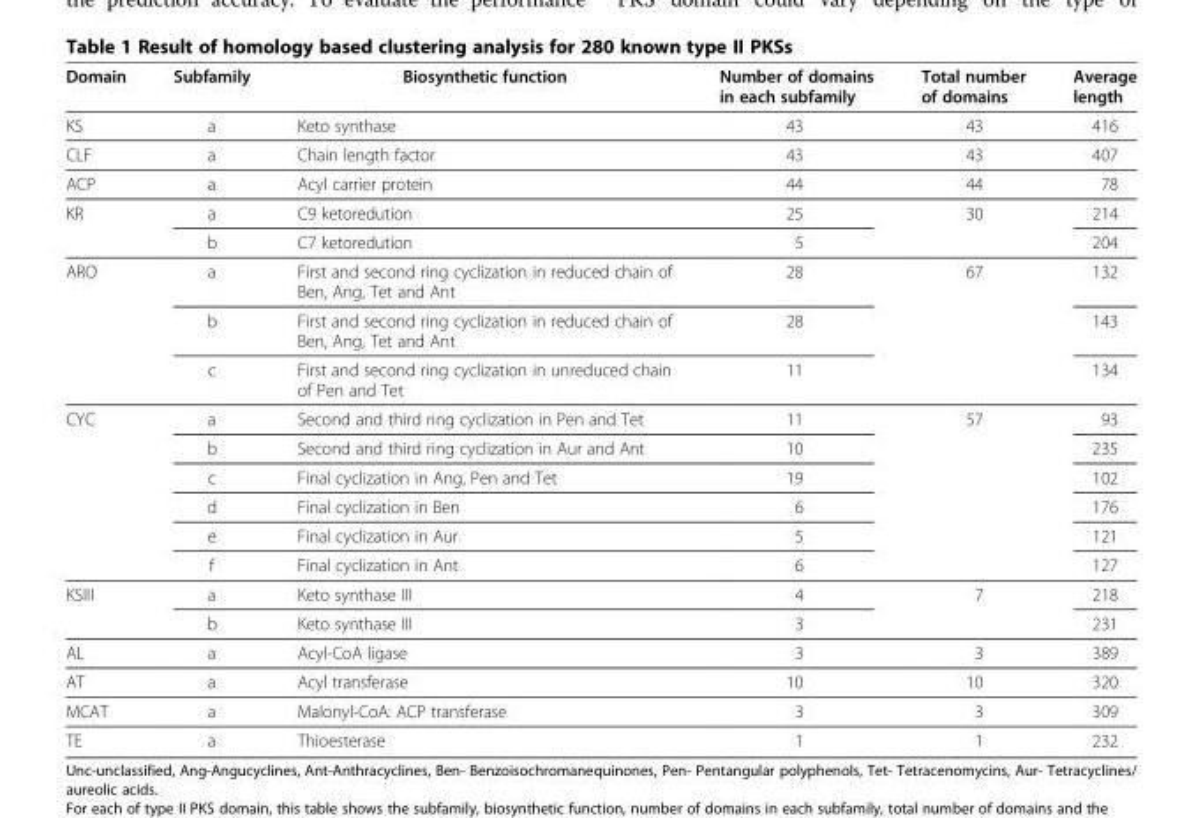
<table><thead><tr><td>Domain</td><td>Subfamily</td><td>Biosynthetic function</td><td>Number of domains in each subfamily</td><td>Total number of domains</td><td>Average length</td></tr></thead><tbody><tr><td>KS</td><td>a</td><td>Keto synthase</td><td>43</td><td>43</td><td>416</td></tr><tr><td>CLF</td><td>a</td><td>Chain length factor</td><td>43</td><td>43</td><td>407</td></tr><tr><td>ACP</td><td>a</td><td>Acyl carrier protein</td><td>44</td><td>44</td><td>78</td></tr><tr><td rowspan="2">KR</td><td>a</td><td>C9 ketoredution</td><td>25</td><td>30</td><td>214</td></tr><tr><td>b</td><td>C7 ketoredution</td><td>5</td><td></td><td>204</td></tr><tr><td rowspan="3">ARO</td><td>a</td><td>First and second ring cyclization in reduced chain of Ben, Ang, Tet and Ant</td><td>28</td><td>67</td><td>132</td></tr><tr><td>b</td><td>First and second ring cyclization in reduced chain of Ben, Ang, Tet and Ant</td><td>28</td><td></td><td>143</td></tr><tr><td>c</td><td>First and second ring cyclization in unreduced chain of Pen and Tet</td><td>11</td><td></td><td>134</td></tr><tr><td rowspan="6">CYC</td><td>a</td><td>Second and third ring cyclization in Pen and Tet</td><td>11</td><td>57</td><td>93</td></tr><tr><td>b</td><td>Second and third ring cyclization in Aur and Ant</td><td>10</td><td></td><td>235</td></tr><tr><td>c</td><td>Final cyclization in Ang, Pen and Tet</td><td>19</td><td></td><td>102</td></tr><tr><td>d</td><td>Final cyclization in Ben</td><td>6</td><td></td><td>176</td></tr><tr><td>e</td><td>Final cyclization in Aur</td><td>5</td><td></td><td>121</td></tr><tr><td>f</td><td>Final cyclization in Ant</td><td>6</td><td></td><td>127</td></tr><tr><td rowspan="2">KSIII</td><td>a</td><td>Keto synthase III</td><td>4</td><td>7</td><td>218</td></tr><tr><td>b</td><td>Keto synthase III</td><td>3</td><td></td><td>231</td></tr><tr><td>AL</td><td>a</td><td>Acyl-CoA ligase</td><td>3</td><td>3</td><td>389</td></tr><tr><td>AT</td><td>a</td><td>Acyl transferase</td><td>10</td><td>10</td><td>320</td></tr><tr><td>MCAT</td><td>a</td><td>Malonyl-CoA: ACP transferase</td><td>3</td><td>3</td><td>309</td></tr><tr><td>TE</td><td>a</td><td>Thioesterase</td><td>1</td><td>1</td><td>232</td></tr></tbody></table>